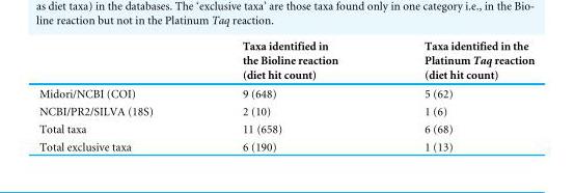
<table><thead><tr><td></td><td>Taxa identified in the Bioline reaction (diet hit count)</td><td>Taxa identified in the Platinum Taq reaction (diet hit count)</td></tr></thead><tbody><tr><td>Midori/NCBI (COI)</td><td>9 (648)</td><td>5 (62)</td></tr><tr><td>NCBI/PR2/SILVA (18S)</td><td>2 (10)</td><td>1 (6)</td></tr><tr><td>Total taxa</td><td>11 (658)</td><td>6 (68)</td></tr><tr><td>Total exclusive taxa</td><td>6 (190)</td><td>1 (13)</td></tr></tbody></table>